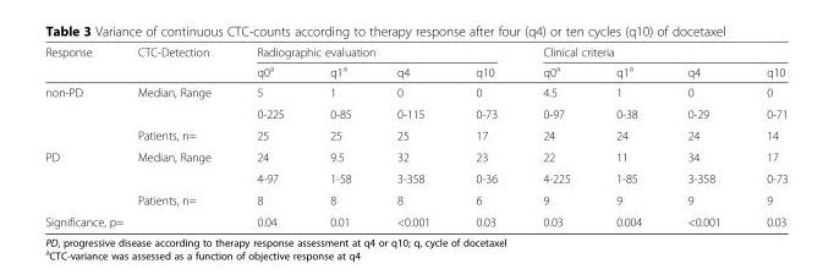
<table><thead><tr><td rowspan="2">Response</td><td rowspan="2">CTC-Detection</td><td colspan="4">Radiographic evaluation</td><td colspan="4">Clinical criteria</td></tr><tr><td>q0<sup>a</sup></td><td>q1<sup>a</sup></td><td>q4</td><td>q10</td><td>q0<sup>a</sup></td><td>q1<sup>a</sup></td><td>q4</td><td>q10</td></tr></thead><tbody><tr><td rowspan="3">non-PD</td><td rowspan="2">Median, Range</td><td>5</td><td>1</td><td>0</td><td>0</td><td>4.5</td><td>1</td><td>0</td><td>0</td></tr><tr><td>0-225</td><td>0-85</td><td>0-115</td><td>0-73</td><td>0-97</td><td>0-38</td><td>0-29</td><td>0-71</td></tr><tr><td>Patients, n=</td><td>25</td><td>25</td><td>25</td><td>17</td><td>24</td><td>24</td><td>24</td><td>14</td></tr><tr><td rowspan="3">PD</td><td rowspan="2">Median, Range</td><td>24</td><td>9.5</td><td>32</td><td>23</td><td>22</td><td>11</td><td>34</td><td>17</td></tr><tr><td>4-97</td><td>1-58</td><td>3-358</td><td>0-36</td><td>4-225</td><td>1-85</td><td>3-358</td><td>0-73</td></tr><tr><td>Patients, n=</td><td>8</td><td>8</td><td>8</td><td>6</td><td>9</td><td>9</td><td>9</td><td>9</td></tr><tr><td colspan="2">Significance, p=</td><td>0.04</td><td>0.01</td><td>&lt;0.001</td><td>0.03</td><td>0.03</td><td>0.004</td><td>&lt;0.001</td><td>0.03</td></tr></tbody></table>